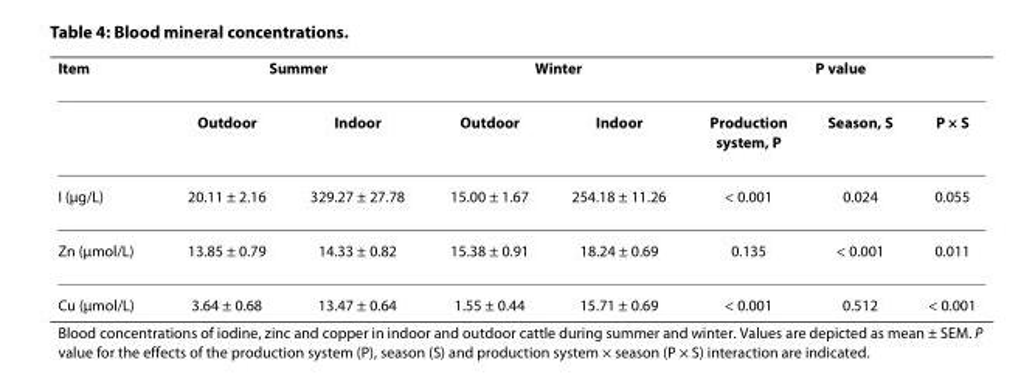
<table><thead><tr><td rowspan="2">Item</td><td colspan="2">Summer</td><td colspan="2">Winter</td><td colspan="3">P value</td></tr><tr><td>Outdoor</td><td>Indoor</td><td>Outdoor</td><td>Indoor</td><td>Production system, P</td><td>Season, S</td><td>P × S</td></tr></thead><tbody><tr><td>I (μg/L)</td><td>20.11 ± 2.16</td><td>329.27 ± 27.78</td><td>15.00 ± 1.67</td><td>254.18 ± 11.26</td><td>&lt; 0.001</td><td>0.024</td><td>0.055</td></tr><tr><td>Zn (μmol/L)</td><td>13.85 ± 0.79</td><td>14.33 ± 0.82</td><td>15.38 ± 0.91</td><td>18.24 ± 0.69</td><td>0.135</td><td>&lt; 0.001</td><td>0.011</td></tr><tr><td>Cu (μmol/L)</td><td>3.64 ± 0.68</td><td>13.47 ± 0.64</td><td>1.55 ± 0.44</td><td>15.71 ± 0.69</td><td>&lt; 0.001</td><td>0.512</td><td>&lt; 0.001</td></tr></tbody></table>